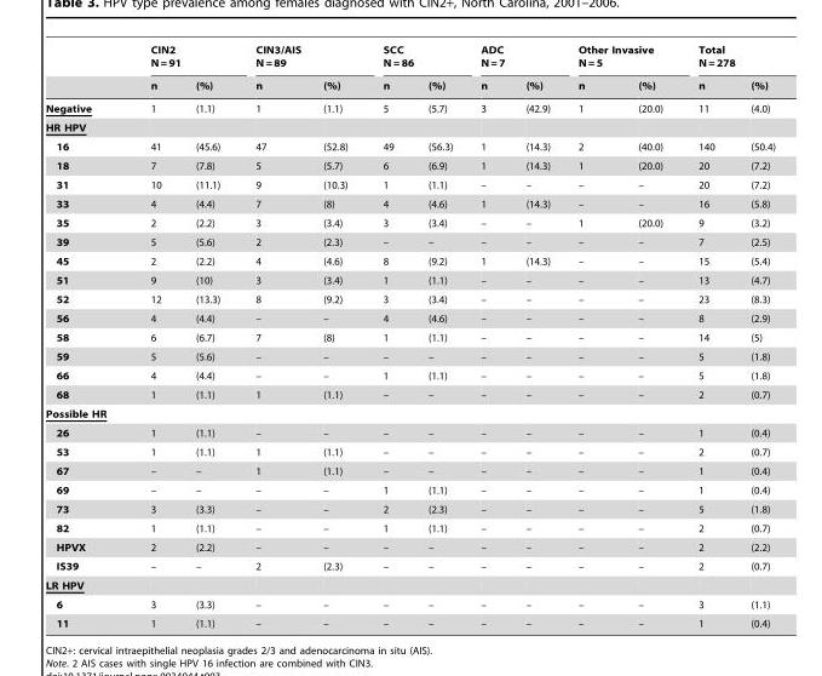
<table><thead><tr><td rowspan="2"></td><td colspan="2">CIN2 N = 91</td><td colspan="2">CIN3/AIS N = 89</td><td colspan="2">SCC N = 86</td><td colspan="2">ADC N = 7</td><td colspan="2">Other Invasive N = 5</td><td colspan="2">Total N = 278</td></tr><tr><td>n</td><td>(%)</td><td>n</td><td>(%)</td><td>n</td><td>(%)</td><td>n</td><td>(%)</td><td>n</td><td>(%)</td><td>n</td><td>(%)</td></tr></thead><tbody><tr><td>Negative</td><td>1</td><td>(1.1)</td><td>1</td><td>(1.1)</td><td>5</td><td>(5.7)</td><td>3</td><td>(42.9)</td><td>1</td><td>(20.0)</td><td>11</td><td>(4.0)</td></tr><tr><td colspan="13">HR HPV</td></tr><tr><td>16</td><td>41</td><td>(45.6)</td><td>47</td><td>(52.8)</td><td>49</td><td>(56.3)</td><td>1</td><td>(14.3)</td><td>2</td><td>(40.0)</td><td>140</td><td>(50.4)</td></tr><tr><td>18</td><td>7</td><td>(7.8)</td><td>5</td><td>(5.7)</td><td>6</td><td>(6.9)</td><td>1</td><td>(14.3)</td><td>1</td><td>(20.0)</td><td>20</td><td>(7.2)</td></tr><tr><td>31</td><td>10</td><td>(11.1)</td><td>9</td><td>(10.3)</td><td>1</td><td>(1.1)</td><td>–</td><td>–</td><td>–</td><td>–</td><td>20</td><td>(7.2)</td></tr><tr><td>33</td><td>4</td><td>(4.4)</td><td>7</td><td>(8)</td><td>4</td><td>(4.6)</td><td>1</td><td>(14.3)</td><td>–</td><td>–</td><td>16</td><td>(5.8)</td></tr><tr><td>35</td><td>2</td><td>(2.2)</td><td>3</td><td>(3.4)</td><td>3</td><td>(3.4)</td><td>–</td><td>–</td><td>1</td><td>(20.0)</td><td>9</td><td>(3.2)</td></tr><tr><td>39</td><td>5</td><td>(5.6)</td><td>2</td><td>(2.3)</td><td>–</td><td>–</td><td>–</td><td>–</td><td>–</td><td>–</td><td>7</td><td>(2.5)</td></tr><tr><td>45</td><td>2</td><td>(2.2)</td><td>4</td><td>(4.6)</td><td>8</td><td>(9.2)</td><td>1</td><td>(14.3)</td><td>–</td><td>–</td><td>15</td><td>(5.4)</td></tr><tr><td>51</td><td>9</td><td>(10)</td><td>3</td><td>(3.4)</td><td>1</td><td>(1.1)</td><td>–</td><td>–</td><td>–</td><td>–</td><td>13</td><td>(4.7)</td></tr><tr><td>52</td><td>12</td><td>(13.3)</td><td>8</td><td>(9.2)</td><td>3</td><td>(3.4)</td><td>–</td><td>–</td><td>–</td><td>–</td><td>23</td><td>(8.3)</td></tr><tr><td>56</td><td>4</td><td>(4.4)</td><td>–</td><td>–</td><td>4</td><td>(4.6)</td><td>–</td><td>–</td><td>–</td><td>–</td><td>8</td><td>(2.9)</td></tr><tr><td>58</td><td>6</td><td>(6.7)</td><td>7</td><td>(8)</td><td>1</td><td>(1.1)</td><td>–</td><td>–</td><td>–</td><td>–</td><td>14</td><td>(5)</td></tr><tr><td>59</td><td>5</td><td>(5.6)</td><td>–</td><td>–</td><td>–</td><td>–</td><td>–</td><td>–</td><td>–</td><td>–</td><td>5</td><td>(1.8)</td></tr><tr><td>66</td><td>4</td><td>(4.4)</td><td>–</td><td>–</td><td>1</td><td>(1.1)</td><td>–</td><td>–</td><td>–</td><td>–</td><td>5</td><td>(1.8)</td></tr><tr><td>68</td><td>1</td><td>(1.1)</td><td>1</td><td>(1.1)</td><td>–</td><td>–</td><td>–</td><td>–</td><td>–</td><td>–</td><td>2</td><td>(0.7)</td></tr><tr><td colspan="13">Possible HR</td></tr><tr><td>26</td><td>1</td><td>(1.1)</td><td>–</td><td>–</td><td>–</td><td>–</td><td>–</td><td>–</td><td>–</td><td>–</td><td>1</td><td>(0.4)</td></tr><tr><td>53</td><td>1</td><td>(1.1)</td><td>1</td><td>(1.1)</td><td>–</td><td>–</td><td>–</td><td>–</td><td>–</td><td>–</td><td>2</td><td>(0.7)</td></tr><tr><td>67</td><td>–</td><td>–</td><td>1</td><td>(1.1)</td><td>–</td><td>–</td><td>–</td><td>–</td><td>–</td><td>–</td><td>1</td><td>(0.4)</td></tr><tr><td>69</td><td>–</td><td>–</td><td>–</td><td>–</td><td>1</td><td>(1.1)</td><td>–</td><td>–</td><td>–</td><td>–</td><td>1</td><td>(0.4)</td></tr><tr><td>73</td><td>3</td><td>(3.3)</td><td>–</td><td>–</td><td>2</td><td>(2.3)</td><td>–</td><td>–</td><td>–</td><td>–</td><td>5</td><td>(1.8)</td></tr><tr><td>82</td><td>1</td><td>(1.1)</td><td>–</td><td>–</td><td>1</td><td>(1.1)</td><td>–</td><td>–</td><td>–</td><td>–</td><td>2</td><td>(0.7)</td></tr><tr><td>HPVX</td><td>2</td><td>(2.2)</td><td>–</td><td>–</td><td>–</td><td>–</td><td>–</td><td>–</td><td>–</td><td>–</td><td>2</td><td>(2.2)</td></tr><tr><td>IS39</td><td>–</td><td>–</td><td>2</td><td>(2.3)</td><td>–</td><td>–</td><td>–</td><td>–</td><td>–</td><td>–</td><td>2</td><td>(0.7)</td></tr><tr><td colspan="13">LR HPV</td></tr><tr><td>6</td><td>3</td><td>(3.3)</td><td>–</td><td>–</td><td>–</td><td>–</td><td>–</td><td>–</td><td>–</td><td>–</td><td>3</td><td>(1.1)</td></tr><tr><td>11</td><td>1</td><td>(1.1)</td><td>–</td><td>–</td><td>–</td><td>–</td><td>–</td><td>–</td><td>–</td><td>–</td><td>1</td><td>(0.4)</td></tr></tbody></table>